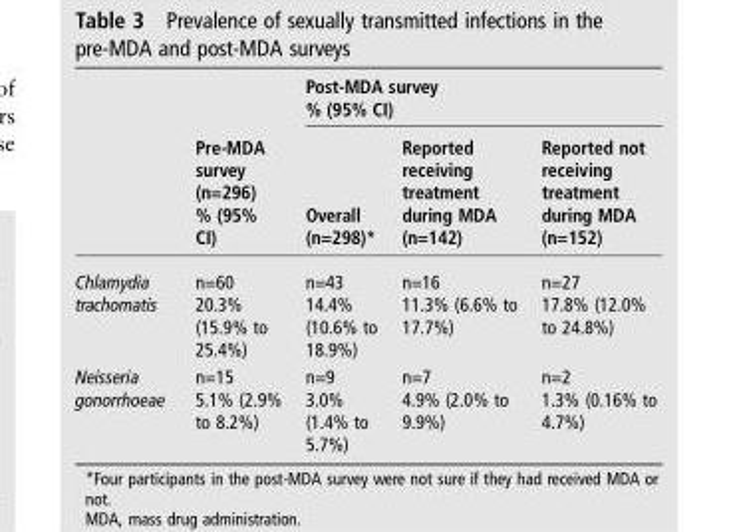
<table><thead><tr><td rowspan="2"></td><td rowspan="2">Pre-MDA survey (n=296) % (95% CI)</td><td colspan="3">Post-MDA survey % (95% CI)</td></tr><tr><td>Overall (n=298)*</td><td>Reported receiving treatment during MDA (n=142)</td><td>Reported not receiving treatment during MDA (n=152)</td></tr></thead><tbody><tr><td>Chlamydia trachomatis</td><td>n=60 20.3% (15.9% to 25.4%)</td><td>n=43 14.4% (10.6% to 18.9%)</td><td>n=16 11.3% (6.6% to 17.7%)</td><td>n=27 17.8% (12.0% to 24.8%)</td></tr><tr><td>Neisseria gonorrhoeae</td><td>n=15 5.1% (2.9% to 8.2%)</td><td>n=9 3.0% (1.4% to 5.7%)</td><td>n=7 4.9% (2.0% to 9.9%)</td><td>n=2 1.3% (0.16% to 4.7%)</td></tr></tbody></table>